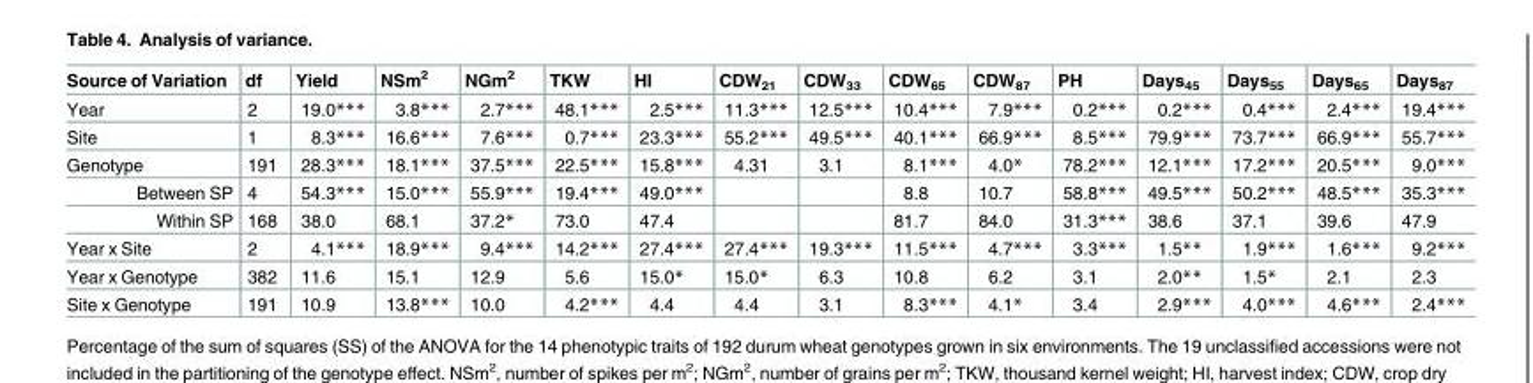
<table><thead><tr><td>Source of Variation</td><td>df</td><td>Yield</td><td>NSm<sup>2</sup></td><td>NGm<sup>2</sup></td><td>TKW</td><td>HI</td><td>CDW<sub>21</sub></td><td>CDW<sub>33</sub></td><td>CDW<sub>65</sub></td><td>CDW<sub>87</sub></td><td>PH</td><td>Days<sub>45</sub></td><td>Days<sub>55</sub></td><td>Days<sub>65</sub></td><td>Days<sub>87</sub></td></tr></thead><tbody><tr><td>Year</td><td>2</td><td>19.0***</td><td>3.8***</td><td>2.7***</td><td>48.1***</td><td>2.5***</td><td>11.3***</td><td>12.5***</td><td>10.4***</td><td>7.9***</td><td>0.2***</td><td>0.2***</td><td>0.4***</td><td>2.4***</td><td>19.4***</td></tr><tr><td>Site</td><td>1</td><td>8.3***</td><td>16.6***</td><td>7.6***</td><td>0.7***</td><td>23.3***</td><td>55.2***</td><td>49.5***</td><td>40.1***</td><td>66.9***</td><td>8.5***</td><td>79.9***</td><td>73.7***</td><td>66.9***</td><td>55.7***</td></tr><tr><td>Genotype</td><td>191</td><td>28.3***</td><td>18.1***</td><td>37.5***</td><td>22.5***</td><td>15.8***</td><td>4.31</td><td>3.1</td><td>8.1***</td><td>4.0*</td><td>78.2***</td><td>12.1***</td><td>17.2***</td><td>20.5***</td><td>9.0***</td></tr><tr><td>Between SP</td><td>4</td><td>54.3***</td><td>15.0***</td><td>55.9***</td><td>19.4***</td><td>49.0***</td><td></td><td></td><td>8.8</td><td>10.7</td><td>58.8***</td><td>49.5***</td><td>50.2***</td><td>48.5***</td><td>35.3***</td></tr><tr><td>Within SP</td><td>168</td><td>38.0</td><td>68.1</td><td>37.2*</td><td>73.0</td><td>47.4</td><td></td><td></td><td>81.7</td><td>84.0</td><td>31.3***</td><td>38.6</td><td>37.1</td><td>39.6</td><td>47.9</td></tr><tr><td>Year x Site</td><td>2</td><td>4.1***</td><td>18.9***</td><td>9.4***</td><td>14.2***</td><td>27.4***</td><td>27.4***</td><td>19.3***</td><td>11.5***</td><td>4.7***</td><td>3.3***</td><td>1.5**</td><td>1.9***</td><td>1.6***</td><td>9.2***</td></tr><tr><td>Year x Genotype</td><td>382</td><td>11.6</td><td>15.1</td><td>12.9</td><td>5.6</td><td>15.0*</td><td>15.0*</td><td>6.3</td><td>10.8</td><td>6.2</td><td>3.1</td><td>2.0**</td><td>1.5*</td><td>2.1</td><td>2.3</td></tr><tr><td>Site x Genotype</td><td>191</td><td>10.9</td><td>13.8***</td><td>10.0</td><td>4.2***</td><td>4.4</td><td>4.4</td><td>3.1</td><td>8.3***</td><td>4.1*</td><td>3.4</td><td>2.9***</td><td>4.0***</td><td>4.6***</td><td>2.4***</td></tr></tbody></table>